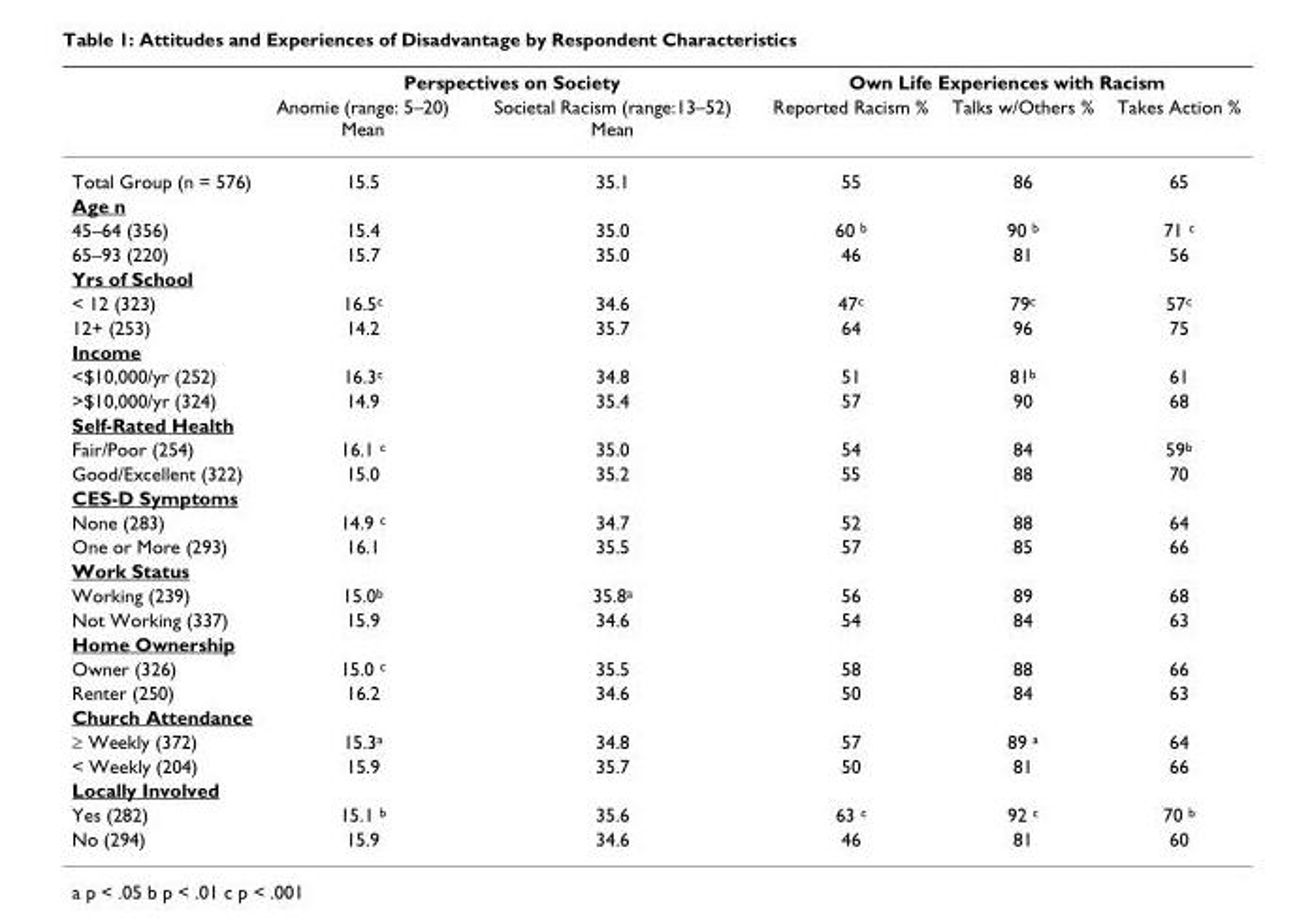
<table><thead><tr><td rowspan="2"></td><td colspan="2">Perspectives on Society</td><td colspan="3">Own Life Experiences with Racism</td></tr><tr><td>Anomie (range: 5–20) Mean</td><td>Societal Racism (range:13–52) Mean</td><td>Reported Racism %</td><td>Talks w/Others %</td><td>Takes Action %</td></tr></thead><tbody><tr><td>Total Group (n = 576)</td><td>15.5</td><td>35.1</td><td>55</td><td>86</td><td>65</td></tr><tr><td colspan="6">Age n</td></tr><tr><td>45–64 (356)</td><td>15.4</td><td>35.0</td><td>60 <sup>b</sup></td><td>90 <sup>b</sup></td><td>71 <sup>c</sup></td></tr><tr><td>65–93 (220)</td><td>15.7</td><td>35.0</td><td>46</td><td>81</td><td>56</td></tr><tr><td colspan="6">Yrs of School</td></tr><tr><td>&lt; 12 (323)</td><td>16.5<sup>c</sup></td><td>34.6</td><td>47<sup>c</sup></td><td>79<sup>c</sup></td><td>57<sup>c</sup></td></tr><tr><td>12+ (253)</td><td>14.2</td><td>35.7</td><td>64</td><td>96</td><td>75</td></tr><tr><td colspan="6">Income</td></tr><tr><td>&lt;$10,000/yr (252)</td><td>16.3<sup>c</sup></td><td>34.8</td><td>51</td><td>81<sup>b</sup></td><td>61</td></tr><tr><td>&gt;$10,000/yr (324)</td><td>14.9</td><td>35.4</td><td>57</td><td>90</td><td>68</td></tr><tr><td colspan="6">Self-Rated Health</td></tr><tr><td>Fair/Poor (254)</td><td>16.1 <sup>c</sup></td><td>35.0</td><td>54</td><td>84</td><td>59<sup>b</sup></td></tr><tr><td>Good/Excellent (322)</td><td>15.0</td><td>35.2</td><td>55</td><td>88</td><td>70</td></tr><tr><td colspan="6">CES-D Symptoms</td></tr><tr><td>None (283)</td><td>14.9 <sup>c</sup></td><td>34.7</td><td>52</td><td>88</td><td>64</td></tr><tr><td>One or More (293)</td><td>16.1</td><td>35.5</td><td>57</td><td>85</td><td>66</td></tr><tr><td colspan="6">Work Status</td></tr><tr><td>Working (239)</td><td>15.0<sup>b</sup></td><td>35.8<sup>a</sup></td><td>56</td><td>89</td><td>68</td></tr><tr><td>Not Working (337)</td><td>15.9</td><td>34.6</td><td>54</td><td>84</td><td>63</td></tr><tr><td colspan="6">Home Ownership</td></tr><tr><td>Owner (326)</td><td>15.0 <sup>c</sup></td><td>35.5</td><td>58</td><td>88</td><td>66</td></tr><tr><td>Renter (250)</td><td>16.2</td><td>34.6</td><td>50</td><td>84</td><td>63</td></tr><tr><td colspan="6">Church Attendance</td></tr><tr><td>≥ Weekly (372)</td><td>15.3<sup>a</sup></td><td>34.8</td><td>57</td><td>89 <sup>a</sup></td><td>64</td></tr><tr><td>&lt; Weekly (204)</td><td>15.9</td><td>35.7</td><td>50</td><td>81</td><td>66</td></tr><tr><td colspan="6">Locally Involved</td></tr><tr><td>Yes (282)</td><td>15.1 <sup>b</sup></td><td>35.6</td><td>63 <sup>c</sup></td><td>92 <sup>c</sup></td><td>70 <sup>b</sup></td></tr><tr><td>No (294)</td><td>15.9</td><td>34.6</td><td>46</td><td>81</td><td>60</td></tr></tbody></table>